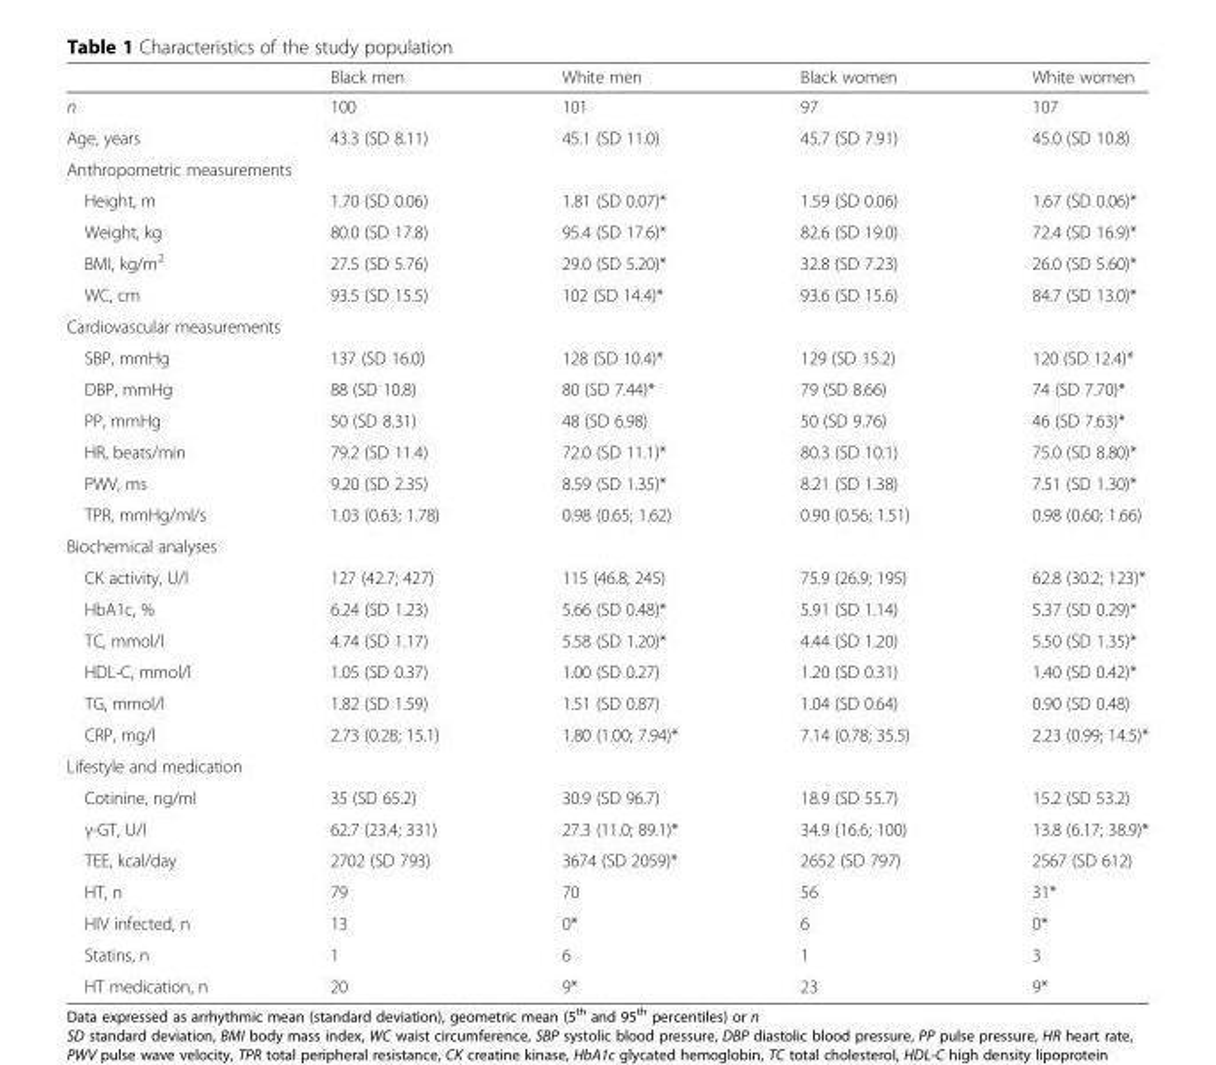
<table><thead><tr><td></td><td>Black men</td><td>White men</td><td>Black women</td><td>White women</td></tr></thead><tbody><tr><td>n</td><td>100</td><td>101</td><td>97</td><td>107</td></tr><tr><td>Age, years</td><td>43.3 (SD 8.11)</td><td>45.1 (SD 11.0)</td><td>45.7 (SD 7.91)</td><td>45.0 (SD 10.8)</td></tr><tr><td colspan="5">Anthropometric measurements</td></tr><tr><td>Height, m</td><td>1.70 (SD 0.06)</td><td>1.81 (SD 0.07)*</td><td>1.59 (SD 0.06)</td><td>1.67 (SD 0.06)*</td></tr><tr><td>Weight, kg</td><td>80.0 (SD 17.8)</td><td>95.4 (SD 17.6)*</td><td>82.6 (SD 19.0)</td><td>72.4 (SD 16.9)*</td></tr><tr><td>BMI, kg/m<sup>2</sup></td><td>27.5 (SD 5.76)</td><td>29.0 (SD 5.20)*</td><td>32.8 (SD 7.23)</td><td>26.0 (SD 5.60)*</td></tr><tr><td>WC, cm</td><td>93.5 (SD 15.5)</td><td>102 (SD 14.4)*</td><td>93.6 (SD 15.6)</td><td>84.7 (SD 13.0)*</td></tr><tr><td colspan="5">Cardiovascular measurements</td></tr><tr><td>SBP, mmHg</td><td>137 (SD 16.0)</td><td>128 (SD 10.4)*</td><td>129 (SD 15.2)</td><td>120 (SD 12.4)*</td></tr><tr><td>DBP, mmHg</td><td>88 (SD 10.8)</td><td>80 (SD 7.44)*</td><td>79 (SD 8.66)</td><td>74 (SD 7.70)*</td></tr><tr><td>PP, mmHg</td><td>50 (SD 8.31)</td><td>48 (SD 6.98)</td><td>50 (SD 9.76)</td><td>46 (SD 7.63)*</td></tr><tr><td>HR, beats/min</td><td>79.2 (SD 11.4)</td><td>72.0 (SD 11.1)*</td><td>80.3 (SD 10.1)</td><td>75.0 (SD 8.80)*</td></tr><tr><td>PWV, ms</td><td>9.20 (SD 2.35)</td><td>8.59 (SD 1.35)*</td><td>8.21 (SD 1.38)</td><td>7.51 (SD 1.30)*</td></tr><tr><td>TPR, mmHg/ml/s</td><td>1.03 (0.63; 1.78)</td><td>0.98 (0.65; 1.62)</td><td>0.90 (0.56; 1.51)</td><td>0.98 (0.60; 1.66)</td></tr><tr><td colspan="5">Biochemical analyses</td></tr><tr><td>CK activity, U/l</td><td>127 (42.7; 427)</td><td>115 (46.8; 245)</td><td>75.9 (26.9; 195)</td><td>62.8 (30.2; 123)*</td></tr><tr><td>HbA1c, %</td><td>6.24 (SD 1.23)</td><td>5.66 (SD 0.48)*</td><td>5.91 (SD 1.14)</td><td>5.37 (SD 0.29)*</td></tr><tr><td>TC, mmol/l</td><td>4.74 (SD 1.17)</td><td>5.58 (SD 1.20)*</td><td>4.44 (SD 1.20)</td><td>5.50 (SD 1.35)*</td></tr><tr><td>HDL-C, mmol/l</td><td>1.05 (SD 0.37)</td><td>1.00 (SD 0.27)</td><td>1.20 (SD 0.31)</td><td>1.40 (SD 0.42)*</td></tr><tr><td>TG, mmol/l</td><td>1.82 (SD 1.59)</td><td>1.51 (SD 0.87)</td><td>1.04 (SD 0.64)</td><td>0.90 (SD 0.48)</td></tr><tr><td>CRP, mg/l</td><td>2.73 (0.28; 15.1)</td><td>1.80 (1.00; 7.94)*</td><td>7.14 (0.78; 35.5)</td><td>2.23 (0.99; 14.5)*</td></tr><tr><td colspan="5">Lifestyle and medication</td></tr><tr><td>Cotinine, ng/ml</td><td>35 (SD 65.2)</td><td>30.9 (SD 96.7)</td><td>18.9 (SD 55.7)</td><td>15.2 (SD 53.2)</td></tr><tr><td>γ-GT, U/l</td><td>62.7 (23.4; 331)</td><td>27.3 (11.0; 89.1)*</td><td>34.9 (16.6; 100)</td><td>13.8 (6.17; 38.9)*</td></tr><tr><td>TEE, kcal/day</td><td>2702 (SD 793)</td><td>3674 (SD 2059)*</td><td>2652 (SD 797)</td><td>2567 (SD 612)</td></tr><tr><td>HT, n</td><td>79</td><td>70</td><td>56</td><td>31*</td></tr><tr><td>HIV infected, n</td><td>13</td><td>0*</td><td>6</td><td>0*</td></tr><tr><td>Statins, n</td><td>1</td><td>6</td><td>1</td><td>3</td></tr><tr><td>HT medication, n</td><td>20</td><td>9*</td><td>23</td><td>9*</td></tr></tbody></table>